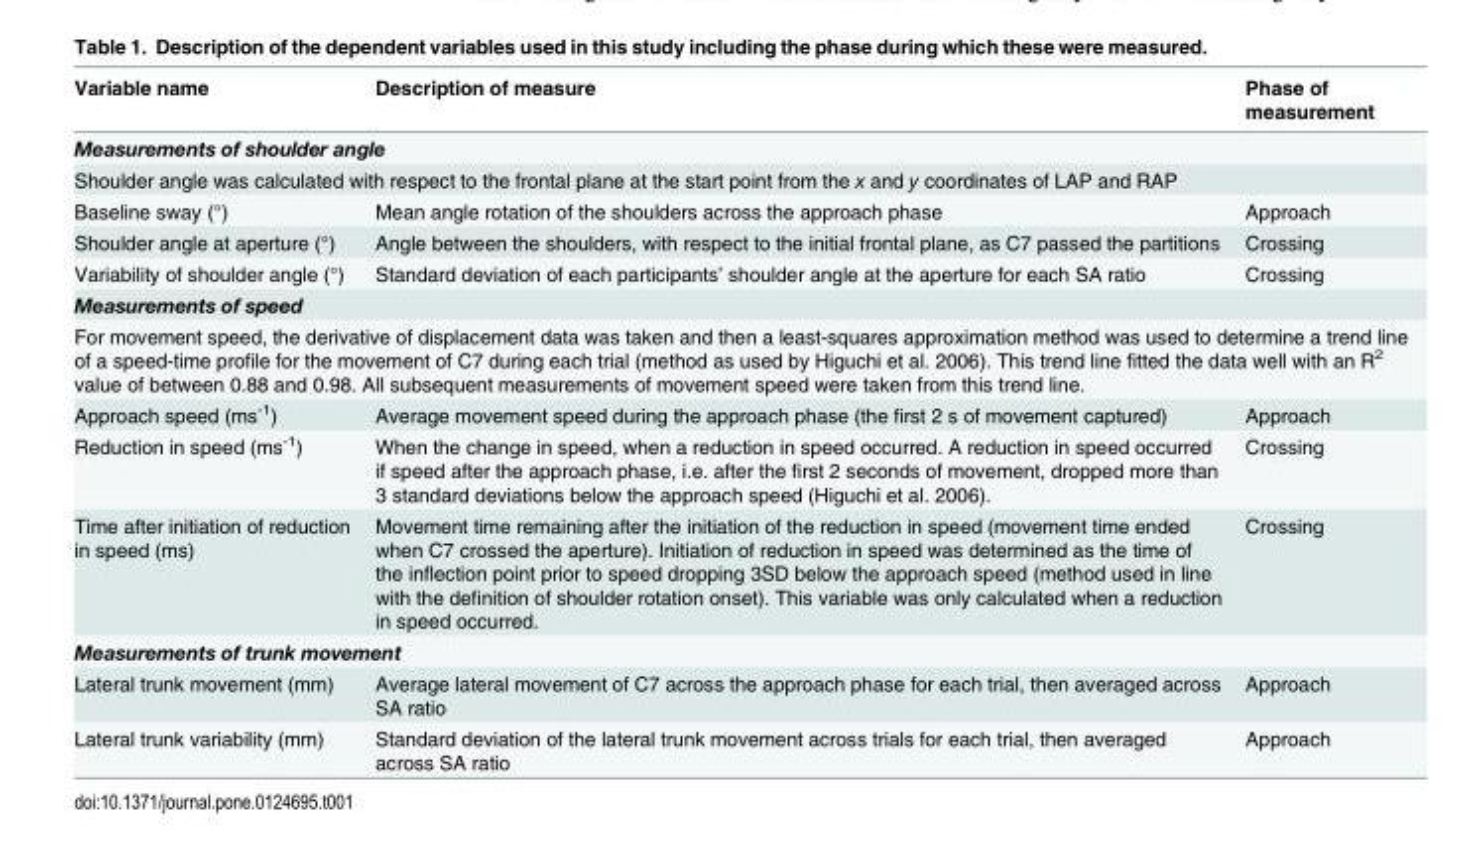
<table><thead><tr><td>Variable name</td><td>Description of measure</td><td>Phase of measurement</td></tr></thead><tbody><tr><td colspan="3">Measurements of shoulder angle</td></tr><tr><td colspan="3">Shoulder angle was calculated with respect to the frontal plane at the start point from the x and y coordinates of LAP and RAP</td></tr><tr><td>Baseline sway (°)</td><td>Mean angle rotation of the shoulders across the approach phase</td><td>Approach</td></tr><tr><td>Shoulder angle at aperture (°)</td><td>Angle between the shoulders, with respect to the initial frontal plane, as C7 passed the partitions</td><td>Crossing</td></tr><tr><td>Variability of shoulder angle (°)</td><td>Standard deviation of each participants’ shoulder angle at the aperture for each SA ratio</td><td>Crossing</td></tr><tr><td colspan="3">Measurements of speed</td></tr><tr><td colspan="3">For movement speed, the derivative of displacement data was taken and then a least-squares approximation method was used to determine a trend line of a speed-time profile for the movement of C7 during each trial (method as used by Higuchi et al. 2006). This trend line fitted the data well with an R<sup>2</sup> value of between 0.88 and 0.98. All subsequent measurements of movement speed were taken from this trend line.</td></tr><tr><td>Approach speed (ms<sup>-1</sup>)</td><td>Average movement speed during the approach phase (the first 2 s of movement captured)</td><td>Approach</td></tr><tr><td>Reduction in speed (ms<sup>-1</sup>)</td><td>When the change in speed, when a reduction in speed occurred. A reduction in speed occurred if speed after the approach phase, i.e. after the first 2 seconds of movement, dropped more than 3 standard deviations below the approach speed (Higuchi et al. 2006).</td><td>Crossing</td></tr><tr><td>Time after initiation of reduction in speed (ms)</td><td>Movement time remaining after the initiation of the reduction in speed (movement time ended when C7 crossed the aperture). Initiation of reduction in speed was determined as the time of the inflection point prior to speed dropping 3SD below the approach speed (method used in line with the definition of shoulder rotation onset). This variable was only calculated when a reduction in speed occurred.</td><td>Crossing</td></tr><tr><td colspan="3">Measurements of trunk movement</td></tr><tr><td>Lateral trunk movement (mm)</td><td>Average lateral movement of C7 across the approach phase for each trial, then averaged across SA ratio</td><td>Approach</td></tr><tr><td>Lateral trunk variability (mm)</td><td>Standard deviation of the lateral trunk movement across trials for each trial, then averaged across SA ratio</td><td>Approach</td></tr></tbody></table>